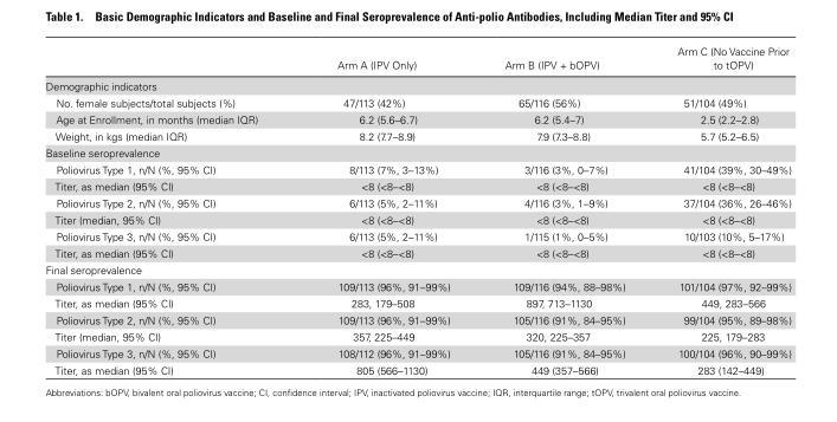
<table><thead><tr><td></td><td>Arm A (IPV Only)</td><td>Arm B (IPV + bOPV)</td><td>Arm C (No Vaccine Prior to tOPV)</td></tr></thead><tbody><tr><td colspan="4">Demographic indicators</td></tr><tr><td>No. female subjects/total subjects (%)</td><td>47/113 (42%)</td><td>65/116 (56%)</td><td>51/104 (49%)</td></tr><tr><td>Age at Enrollment, in months (median IQR)</td><td>6.2 (5.6–6.7)</td><td>6.2 (5.4–7)</td><td>2.5 (2.2–2.8)</td></tr><tr><td>Weight, in kgs (median IQR)</td><td>8.2 (7.7–8.9)</td><td>7.9 (7.3–8.8)</td><td>5.7 (5.2–6.5)</td></tr><tr><td colspan="4">Baseline seroprevalence</td></tr><tr><td>Poliovirus Type 1, n/N (%, 95% CI)</td><td>8/113 (7%, 3–13%)</td><td>3/116 (3%, 0–7%)</td><td>41/104 (39%, 30–49%)</td></tr><tr><td>Titer, as median (95% CI)</td><td>&lt;8 (&lt;8–&lt;8)</td><td>&lt;8 (&lt;8–&lt;8)</td><td>&lt;8 (&lt;8–&lt;8)</td></tr><tr><td>Poliovirus Type 2, n/N (%, 95% CI)</td><td>6/113 (5%, 2–11%)</td><td>4/116 (3%, 1–9%)</td><td>37/104 (36%, 26–46%)</td></tr><tr><td>Titer (median, 95% CI)</td><td>&lt;8 (&lt;8–&lt;8)</td><td>&lt;8 (&lt;8–&lt;8)</td><td>&lt;8 (&lt;8–&lt;8)</td></tr><tr><td>Poliovirus Type 3, n/N (%, 95% CI)</td><td>6/113 (5%, 2–11%)</td><td>1/115 (1%, 0–5%)</td><td>10/103 (10%, 5–17%)</td></tr><tr><td>Titer, as median (95% CI)</td><td>&lt;8 (&lt;8–&lt;8)</td><td>&lt;8 (&lt;8–&lt;8)</td><td>&lt;8 (&lt;8–&lt;8)</td></tr><tr><td colspan="4">Final seroprevalence</td></tr><tr><td>Poliovirus Type 1, n/N (%, 95% CI)</td><td>109/113 (96%, 91–99%)</td><td>109/116 (94%, 88–98%)</td><td>101/104 (97%, 92–99%)</td></tr><tr><td>Titer, as median (95% CI)</td><td>283, 179–508</td><td>897, 713–1130</td><td>449, 283–566</td></tr><tr><td>Poliovirus Type 2, n/N (%, 95% CI)</td><td>109/113 (96%, 91–99%)</td><td>105/116 (91%, 84–95%)</td><td>99/104 (95%, 89–98%)</td></tr><tr><td>Titer (median, 95% CI)</td><td>357, 225–449</td><td>320, 225–357</td><td>225, 179–283</td></tr><tr><td>Poliovirus Type 3, n/N (%, 95% CI)</td><td>108/112 (96%, 91–99%)</td><td>105/116 (91%, 84–95%)</td><td>100/104 (96%, 90–99%)</td></tr><tr><td>Titer, as median (95% CI)</td><td>805 (566–1130)</td><td>449 (357–566)</td><td>283 (142–449)</td></tr></tbody></table>